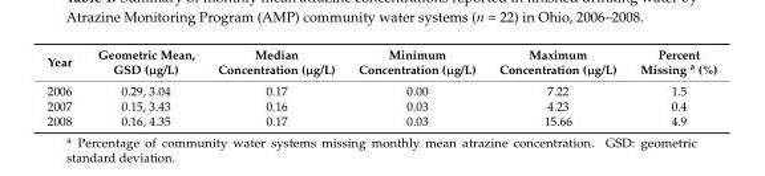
<table><thead><tr><td>Year</td><td>Geometric Mean, GSD (µg/L)</td><td>Median Concentration (µg/L)</td><td>Minimum Concentration (µg/L)</td><td>Maximum Concentration (µg/L)</td><td>Percent Missing <sup>a</sup> (%)</td></tr></thead><tbody><tr><td>2006</td><td>0.29, 3.04</td><td>0.17</td><td>0.00</td><td>7.22</td><td>1.5</td></tr><tr><td>2007</td><td>0.15, 3.43</td><td>0.16</td><td>0.03</td><td>4.23</td><td>0.4</td></tr><tr><td>2008</td><td>0.16, 4.35</td><td>0.17</td><td>0.03</td><td>15.66</td><td>4.9</td></tr></tbody></table>